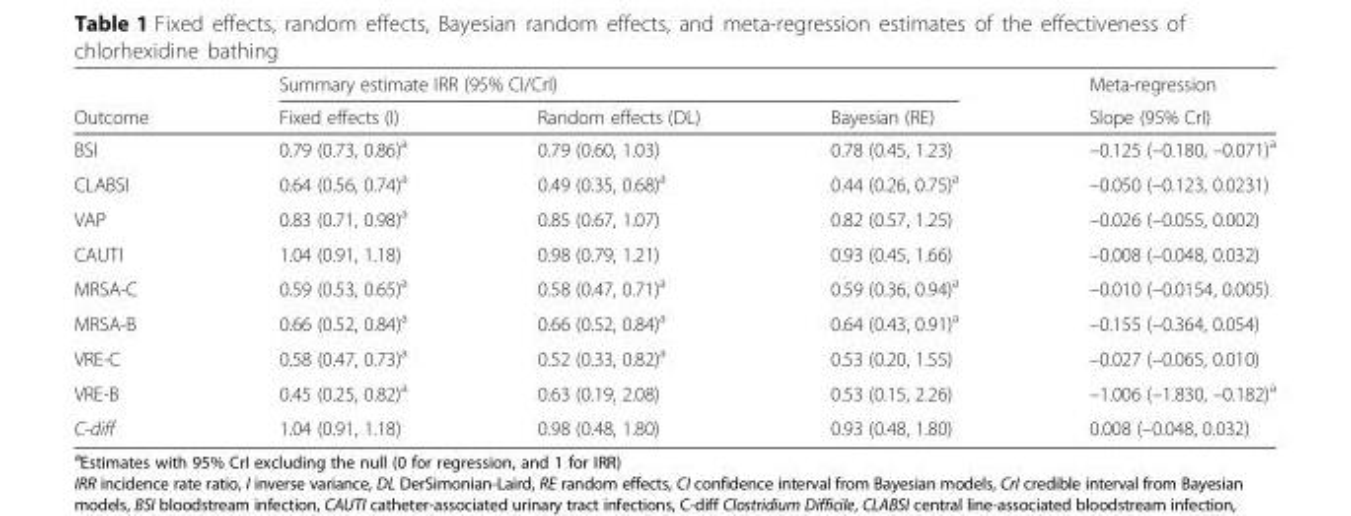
<table><thead><tr><td rowspan="2">Outcome</td><td colspan="3">Summary estimate IRR (95% CI/CrI)</td><td rowspan="2">Meta-regression Slope (95% CrI)</td></tr><tr><td>Fixed effects (I)</td><td>Random effects (DL)</td><td>Bayesian (RE)</td></tr></thead><tbody><tr><td>BSI</td><td>0.79 (0.73, 0.86)<sup>a</sup></td><td>0.79 (0.60, 1.03)</td><td>0.78 (0.45, 1.23)</td><td>–0.125 (–0.180, –0.071)<sup>a</sup></td></tr><tr><td>CLABSI</td><td>0.64 (0.56, 0.74)<sup>a</sup></td><td>0.49 (0.35, 0.68)<sup>a</sup></td><td>0.44 (0.26, 0.75)<sup>a</sup></td><td>–0.050 (–0.123, 0.0231)</td></tr><tr><td>VAP</td><td>0.83 (0.71, 0.98)<sup>a</sup></td><td>0.85 (0.67, 1.07)</td><td>0.82 (0.57, 1.25)</td><td>–0.026 (–0.055, 0.002)</td></tr><tr><td>CAUTI</td><td>1.04 (0.91, 1.18)</td><td>0.98 (0.79, 1.21)</td><td>0.93 (0.45, 1.66)</td><td>–0.008 (–0.048, 0.032)</td></tr><tr><td>MRSA-C</td><td>0.59 (0.53, 0.65)<sup>a</sup></td><td>0.58 (0.47, 0.71)<sup>a</sup></td><td>0.59 (0.36, 0.94)<sup>a</sup></td><td>–0.010 (–0.0154, 0.005)</td></tr><tr><td>MRSA-B</td><td>0.66 (0.52, 0.84)<sup>a</sup></td><td>0.66 (0.52, 0.84)<sup>a</sup></td><td>0.64 (0.43, 0.91)<sup>a</sup></td><td>–0.155 (–0.364, 0.054)</td></tr><tr><td>VRE-C</td><td>0.58 (0.47, 0.73)<sup>a</sup></td><td>0.52 (0.33, 0.82)<sup>a</sup></td><td>0.53 (0.20, 1.55)</td><td>–0.027 (–0.065, 0.010)</td></tr><tr><td>VRE-B</td><td>0.45 (0.25, 0.82)<sup>a</sup></td><td>0.63 (0.19, 2.08)</td><td>0.53 (0.15, 2.26)</td><td>–1.006 (–1.830, –0.182)<sup>a</sup></td></tr><tr><td>C-diff</td><td>1.04 (0.91, 1.18)</td><td>0.98 (0.48, 1.80)</td><td>0.93 (0.48, 1.80)</td><td>0.008 (–0.048, 0.032)</td></tr></tbody></table>